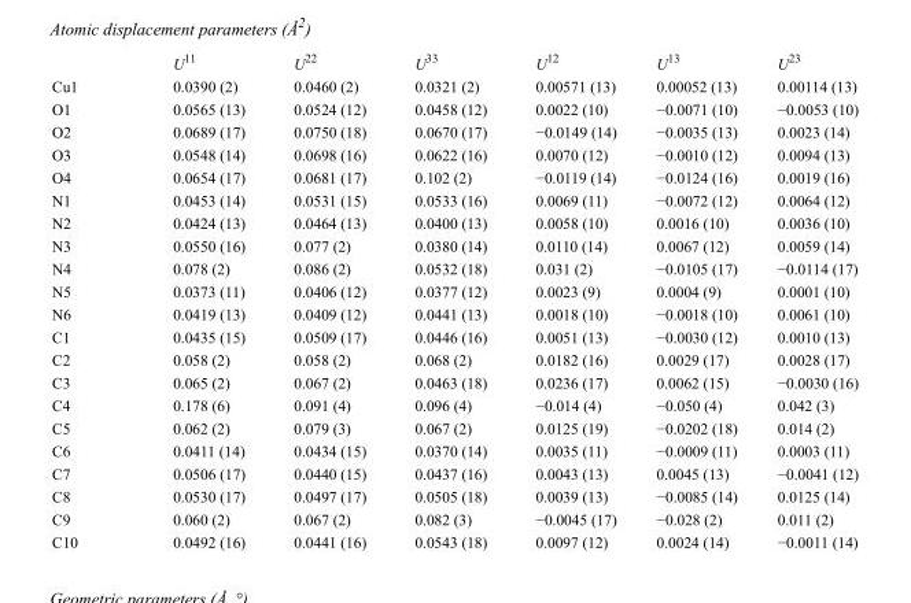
<table><thead><tr><td></td><td>U<sup>11</sup></td><td>U<sup>22</sup></td><td>U<sup>33</sup></td><td>U<sup>12</sup></td><td>U<sup>13</sup></td><td>U<sup>23</sup></td></tr></thead><tbody><tr><td>Cu1</td><td>0.0390 (2)</td><td>0.0460 (2)</td><td>0.0321 (2)</td><td>0.00571 (13)</td><td>0.00052 (13)</td><td>0.00114 (13)</td></tr><tr><td>O1</td><td>0.0565 (13)</td><td>0.0524 (12)</td><td>0.0458 (12)</td><td>0.0022 (10)</td><td>−0.0071 (10)</td><td>−0.0053 (10)</td></tr><tr><td>O2</td><td>0.0689 (17)</td><td>0.0750 (18)</td><td>0.0670 (17)</td><td>−0.0149 (14)</td><td>−0.0035 (13)</td><td>0.0023 (14)</td></tr><tr><td>O3</td><td>0.0548 (14)</td><td>0.0698 (16)</td><td>0.0622 (16)</td><td>0.0070 (12)</td><td>−0.0010 (12)</td><td>0.0094 (13)</td></tr><tr><td>O4</td><td>0.0654 (17)</td><td>0.0681 (17)</td><td>0.102 (2)</td><td>−0.0119 (14)</td><td>−0.0124 (16)</td><td>0.0019 (16)</td></tr><tr><td>N1</td><td>0.0453 (14)</td><td>0.0531 (15)</td><td>0.0533 (16)</td><td>0.0069 (11)</td><td>−0.0072 (12)</td><td>0.0064 (12)</td></tr><tr><td>N2</td><td>0.0424 (13)</td><td>0.0464 (13)</td><td>0.0400 (13)</td><td>0.0058 (10)</td><td>0.0016 (10)</td><td>0.0036 (10)</td></tr><tr><td>N3</td><td>0.0550 (16)</td><td>0.077 (2)</td><td>0.0380 (14)</td><td>0.0110 (14)</td><td>0.0067 (12)</td><td>0.0059 (14)</td></tr><tr><td>N4</td><td>0.078 (2)</td><td>0.086 (2)</td><td>0.0532 (18)</td><td>0.031 (2)</td><td>−0.0105 (17)</td><td>−0.0114 (17)</td></tr><tr><td>N5</td><td>0.0373 (11)</td><td>0.0406 (12)</td><td>0.0377 (12)</td><td>0.0023 (9)</td><td>0.0004 (9)</td><td>0.0001 (10)</td></tr><tr><td>N6</td><td>0.0419 (13)</td><td>0.0409 (12)</td><td>0.0441 (13)</td><td>0.0018 (10)</td><td>−0.0018 (10)</td><td>0.0061 (10)</td></tr><tr><td>C1</td><td>0.0435 (15)</td><td>0.0509 (17)</td><td>0.0446 (16)</td><td>0.0051 (13)</td><td>−0.0030 (12)</td><td>0.0010 (13)</td></tr><tr><td>C2</td><td>0.058 (2)</td><td>0.058 (2)</td><td>0.068 (2)</td><td>0.0182 (16)</td><td>0.0029 (17)</td><td>0.0028 (17)</td></tr><tr><td>C3</td><td>0.065 (2)</td><td>0.067 (2)</td><td>0.0463 (18)</td><td>0.0236 (17)</td><td>0.0062 (15)</td><td>−0.0030 (16)</td></tr><tr><td>C4</td><td>0.178 (6)</td><td>0.091 (4)</td><td>0.096 (4)</td><td>−0.014 (4)</td><td>−0.050 (4)</td><td>0.042 (3)</td></tr><tr><td>C5</td><td>0.062 (2)</td><td>0.079 (3)</td><td>0.067 (2)</td><td>0.0125 (19)</td><td>−0.0202 (18)</td><td>0.014 (2)</td></tr><tr><td>C6</td><td>0.0411 (14)</td><td>0.0434 (15)</td><td>0.0370 (14)</td><td>0.0035 (11)</td><td>−0.0009 (11)</td><td>0.0003 (11)</td></tr><tr><td>C7</td><td>0.0506 (17)</td><td>0.0440 (15)</td><td>0.0437 (16)</td><td>0.0043 (13)</td><td>0.0045 (13)</td><td>−0.0041 (12)</td></tr><tr><td>C8</td><td>0.0530 (17)</td><td>0.0497 (17)</td><td>0.0505 (18)</td><td>0.0039 (13)</td><td>−0.0085 (14)</td><td>0.0125 (14)</td></tr><tr><td>C9</td><td>0.060 (2)</td><td>0.067 (2)</td><td>0.082 (3)</td><td>−0.0045 (17)</td><td>−0.028 (2)</td><td>0.011 (2)</td></tr><tr><td>C10</td><td>0.0492 (16)</td><td>0.0441 (16)</td><td>0.0543 (18)</td><td>0.0097 (12)</td><td>0.0024 (14)</td><td>−0.0011 (14)</td></tr></tbody></table>